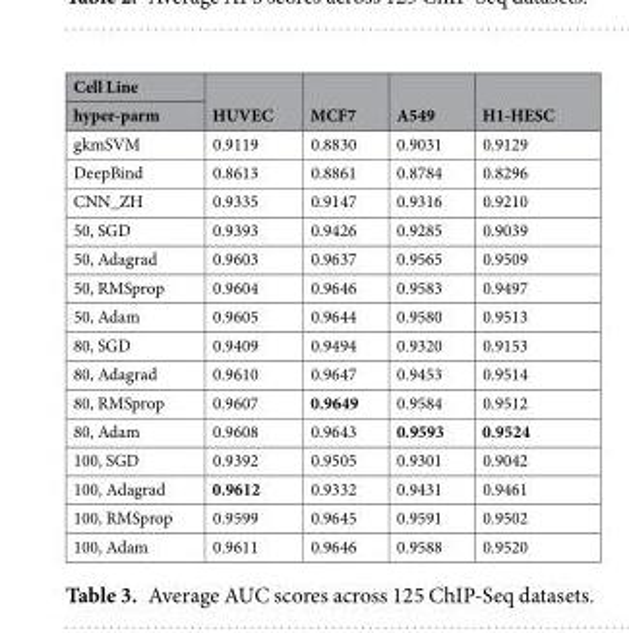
<table><thead><tr><td rowspan="2">Cell Line hyper-parm</td><td rowspan="2">HUVEC</td><td rowspan="2">MCF7</td><td rowspan="2">A549</td><td rowspan="2">H1-HESC</td></tr><tr></tr></thead><tbody><tr><td>gkmSVM</td><td>0.9119</td><td>0.8830</td><td>0.9031</td><td>0.9129</td></tr><tr><td>DeepBind</td><td>0.8613</td><td>0.8861</td><td>0.8784</td><td>0.8296</td></tr><tr><td>CNN_ZH</td><td>0.9335</td><td>0.9147</td><td>0.9316</td><td>0.9210</td></tr><tr><td>50, SGD</td><td>0.9393</td><td>0.9426</td><td>0.9285</td><td>0.9039</td></tr><tr><td>50, Adagrad</td><td>0.9603</td><td>0.9637</td><td>0.9565</td><td>0.9509</td></tr><tr><td>50, RMSprop</td><td>0.9604</td><td>0.9646</td><td>0.9583</td><td>0.9497</td></tr><tr><td>50, Adam</td><td>0.9605</td><td>0.9644</td><td>0.9580</td><td>0.9513</td></tr><tr><td>80, SGD</td><td>0.9409</td><td>0.9494</td><td>0.9320</td><td>0.9153</td></tr><tr><td>80, Adagrad</td><td>0.9610</td><td>0.9647</td><td>0.9453</td><td>0.9514</td></tr><tr><td>80, RMSprop</td><td>0.9607</td><td>0.9649</td><td>0.9584</td><td>0.9512</td></tr><tr><td>80, Adam</td><td>0.9608</td><td>0.9643</td><td>0.9593</td><td>0.9524</td></tr><tr><td>100, SGD</td><td>0.9392</td><td>0.9505</td><td>0.9301</td><td>0.9042</td></tr><tr><td>100, Adagrad</td><td>0.9612</td><td>0.9332</td><td>0.9431</td><td>0.9461</td></tr><tr><td>100, RMSprop</td><td>0.9599</td><td>0.9645</td><td>0.9591</td><td>0.9502</td></tr><tr><td>100, Adam</td><td>0.9611</td><td>0.9646</td><td>0.9588</td><td>0.9520</td></tr></tbody></table>